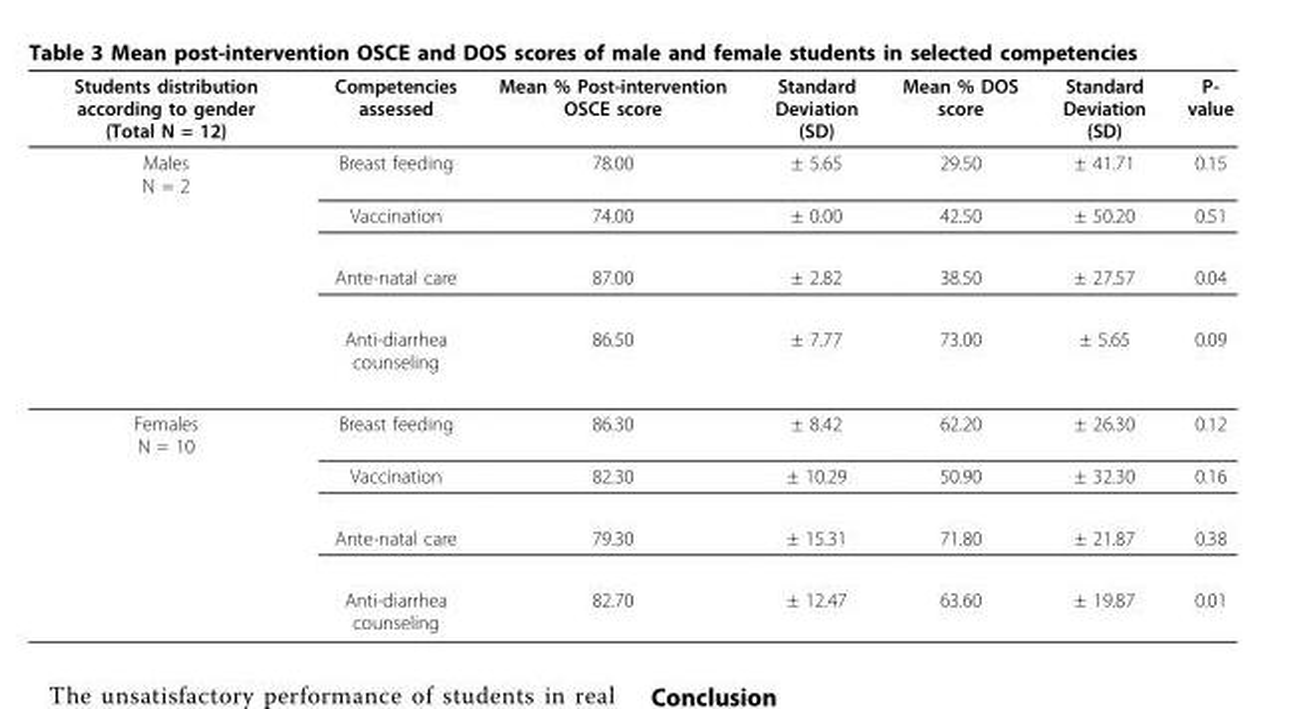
<table><thead><tr><td>Students distribution according to gender (Total N = 12)</td><td>Competencies assessed</td><td>Mean % Post-intervention OSCE score</td><td>Standard Deviation (SD)</td><td>Mean % DOS score</td><td>Standard Deviation (SD)</td><td>P- value</td></tr></thead><tbody><tr><td rowspan="4">Males N = 2</td><td>Breast feeding</td><td>78.00</td><td>± 5.65</td><td>29.50</td><td>± 41.71</td><td>0.15</td></tr><tr><td>Vaccination</td><td>74.00</td><td>± 0.00</td><td>42.50</td><td>± 50.20</td><td>0.51</td></tr><tr><td>Ante-natal care</td><td>87.00</td><td>± 2.82</td><td>38.50</td><td>± 27.57</td><td>0.04</td></tr><tr><td>Anti-diarrhea counseling</td><td>86.50</td><td>± 7.77</td><td>73.00</td><td>± 5.65</td><td>0.09</td></tr><tr><td rowspan="4">Females N = 10</td><td>Breast feeding</td><td>86.30</td><td>± 8.42</td><td>62.20</td><td>± 26.30</td><td>0.12</td></tr><tr><td>Vaccination</td><td>82.30</td><td>± 10.29</td><td>50.90</td><td>± 32.30</td><td>0.16</td></tr><tr><td>Ante-natal care</td><td>79.30</td><td>± 15.31</td><td>71.80</td><td>± 21.87</td><td>0.38</td></tr><tr><td>Anti-diarrhea counseling</td><td>82.70</td><td>± 12.47</td><td>63.60</td><td>± 19.87</td><td>0.01</td></tr></tbody></table>